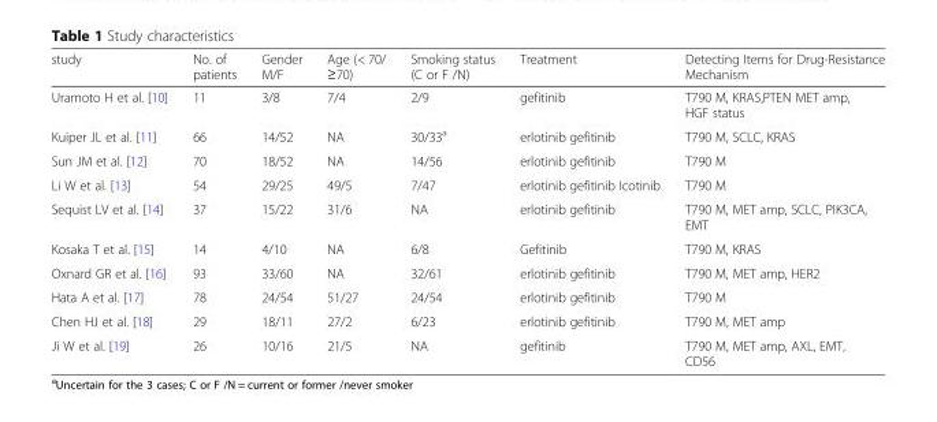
<table><thead><tr><td>study</td><td>No. of patients</td><td>Gender M/F</td><td>Age (&lt; 70/ ≥70)</td><td>Smoking status (C or F /N)</td><td>Treatment</td><td>Detecting Items for Drug-Resistance Mechanism</td></tr></thead><tbody><tr><td>Uramoto H et al. [10]</td><td>11</td><td>3/8</td><td>7/4</td><td>2/9</td><td>gefitinib</td><td>T790 M, KRAS,PTEN MET amp, HGF status</td></tr><tr><td>Kuiper JL et al. [11]</td><td>66</td><td>14/52</td><td>NA</td><td>30/33<sup>a</sup></td><td>erlotinib gefitinib</td><td>T790 M, SCLC, KRAS</td></tr><tr><td>Sun JM et al. [12]</td><td>70</td><td>18/52</td><td>NA</td><td>14/56</td><td>erlotinib gefitinib</td><td>T790 M</td></tr><tr><td>Li W et al. [13]</td><td>54</td><td>29/25</td><td>49/5</td><td>7/47</td><td>erlotinib gefitinib Icotinib</td><td>T790 M</td></tr><tr><td>Sequist LV et al. [14]</td><td>37</td><td>15/22</td><td>31/6</td><td>NA</td><td>erlotinib gefitinib</td><td>T790 M, MET amp, SCLC, PIK3CA, EMT</td></tr><tr><td>Kosaka T et al. [15]</td><td>14</td><td>4/10</td><td>NA</td><td>6/8</td><td>Gefitinib</td><td>T790 M, KRAS</td></tr><tr><td>Oxnard GR et al. [16]</td><td>93</td><td>33/60</td><td>NA</td><td>32/61</td><td>erlotinib gefitinib</td><td>T790 M, MET amp, HER2</td></tr><tr><td>Hata A et al. [17]</td><td>78</td><td>24/54</td><td>51/27</td><td>24/54</td><td>erlotinib gefitinib</td><td>T790 M</td></tr><tr><td>Chen HJ et al. [18]</td><td>29</td><td>18/11</td><td>27/2</td><td>6/23</td><td>erlotinib gefitinib</td><td>T790 M, MET amp</td></tr><tr><td>Ji W et al. [19]</td><td>26</td><td>10/16</td><td>21/5</td><td>NA</td><td>gefitinib</td><td>T790 M, MET amp, AXL, EMT, CD56</td></tr></tbody></table>